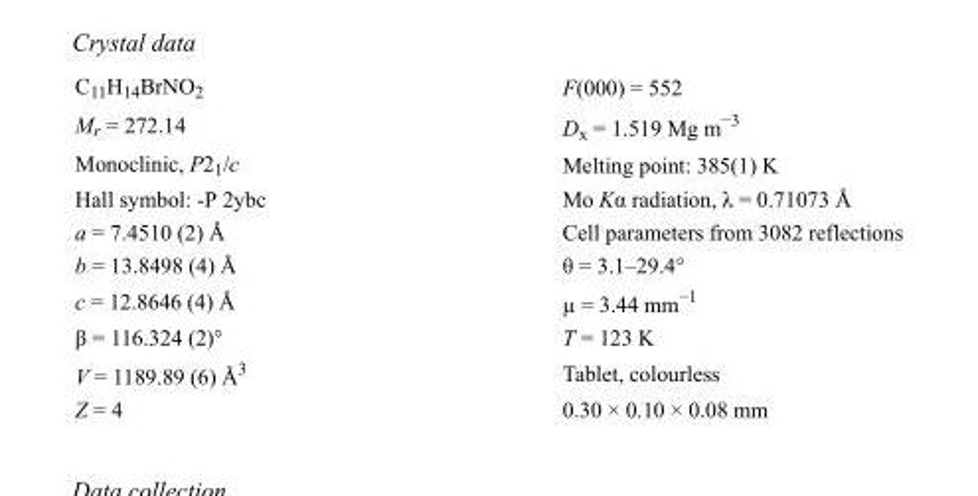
<table><tbody><tr><td>C<sub>11</sub>H<sub>14</sub>BrNO<sub>2</sub></td><td>F(000) = 552</td></tr><tr><td>M<sub>r</sub> = 272.14</td><td>D<sub>x</sub> = 1.519 Mg m<sup>−3</sup></td></tr><tr><td>Monoclinic, P2<sub>1</sub>/c</td><td>Melting point: 385(1) K</td></tr><tr><td>Hall symbol: -P 2ybc</td><td>Mo Kα radiation, λ = 0.71073 Å</td></tr><tr><td>a = 7.4510 (2) Å</td><td>Cell parameters from 3082 reflections</td></tr><tr><td>b = 13.8498 (4) Å</td><td>θ = 3.1–29.4°</td></tr><tr><td>c = 12.8646 (4) Å</td><td>µ = 3.44 mm<sup>−1</sup></td></tr><tr><td>β = 116.324 (2)°</td><td>T = 123 K</td></tr><tr><td>V = 1189.89 (6) Å<sup>3</sup></td><td>Tablet, colourless</td></tr><tr><td>Z = 4</td><td>0.30 × 0.10 × 0.08 mm</td></tr></tbody></table>